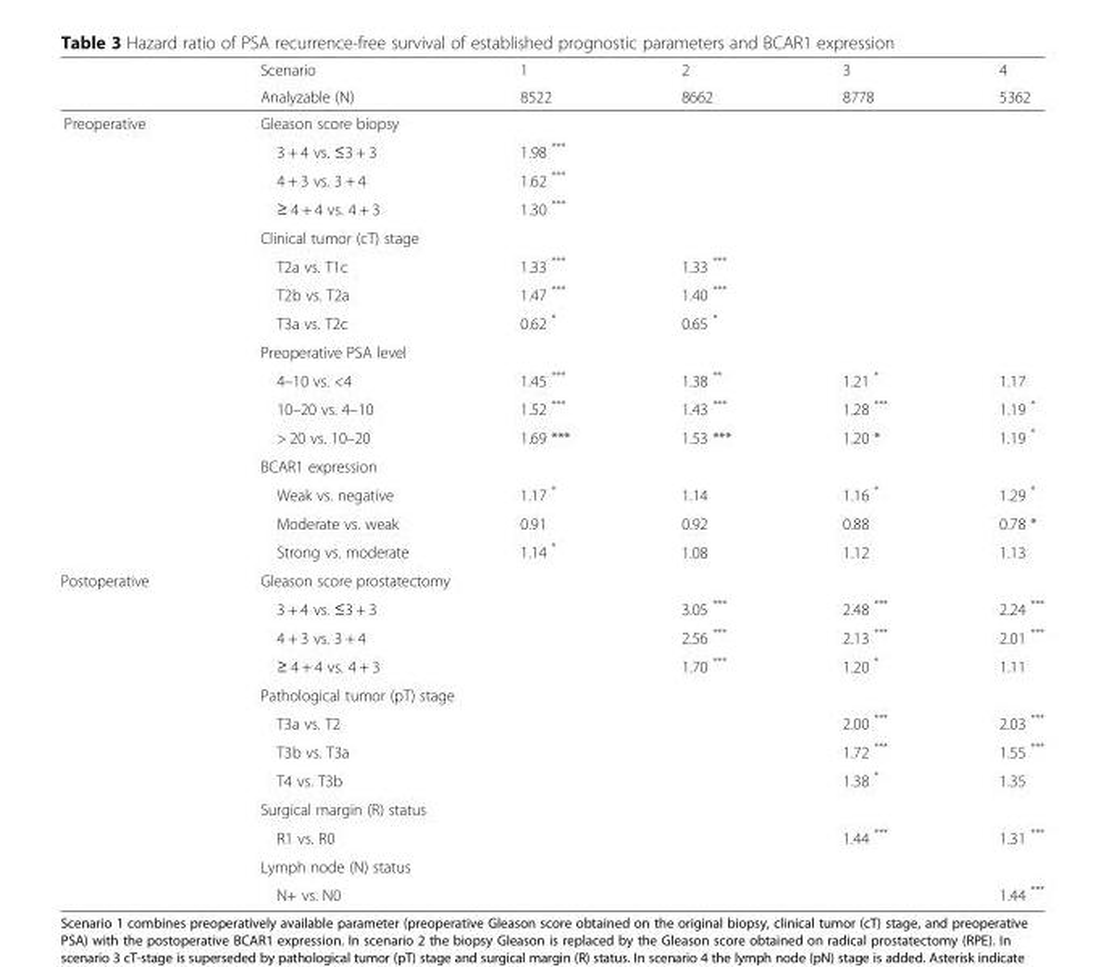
<table><thead><tr><td rowspan="2"></td><td rowspan="2">Scenario Analyzable (N)</td><td rowspan="2">1 8522</td><td rowspan="2">2 8662</td><td rowspan="2">3 8778</td><td rowspan="2">4 5362</td></tr><tr></tr></thead><tbody><tr><td rowspan="16">Preoperative</td><td colspan="5">Gleason score biopsy</td></tr><tr><td>3 + 4 vs. ≤3 + 3</td><td>1.98 ***</td><td></td><td></td><td></td></tr><tr><td>4 + 3 vs. 3 + 4</td><td>1.62 ***</td><td></td><td></td><td></td></tr><tr><td>≥ 4 + 4 vs. 4 + 3</td><td>1.30 ***</td><td></td><td></td><td></td></tr><tr><td colspan="5">Clinical tumor (cT) stage</td></tr><tr><td>T2a vs. T1c</td><td>1.33 ***</td><td>1.33 ***</td><td></td><td></td></tr><tr><td>T2b vs. T2a</td><td>1.47 ***</td><td>1.40 ***</td><td></td><td></td></tr><tr><td>T3a vs. T2c</td><td>0.62 *</td><td>0.65 *</td><td></td><td></td></tr><tr><td colspan="5">Preoperative PSA level</td></tr><tr><td>4–10 vs. &lt;4</td><td>1.45 ***</td><td>1.38 **</td><td>1.21 *</td><td>1.17</td></tr><tr><td>10–20 vs. 4–10</td><td>1.52 ***</td><td>1.43 ***</td><td>1.28 ***</td><td>1.19 *</td></tr><tr><td>&gt; 20 vs. 10–20</td><td>1.69 ***</td><td>1.53 ***</td><td>1.20 *</td><td>1.19 *</td></tr><tr><td colspan="5">BCAR1 expression</td></tr><tr><td>Weak vs. negative</td><td>1.17 *</td><td>1.14</td><td>1.16 *</td><td>1.29 *</td></tr><tr><td>Moderate vs. weak</td><td>0.91</td><td>0.92</td><td>0.88</td><td>0.78 *</td></tr><tr><td>Strong vs. moderate</td><td>1.14 *</td><td>1.08</td><td>1.12</td><td>1.13</td></tr><tr><td rowspan="12">Postoperative</td><td colspan="5">Gleason score prostatectomy</td></tr><tr><td>3 + 4 vs. ≤3 + 3</td><td></td><td>3.05 ***</td><td>2.48 ***</td><td>2.24 ***</td></tr><tr><td>4 + 3 vs. 3 + 4</td><td></td><td>2.56 ***</td><td>2.13 ***</td><td>2.01 ***</td></tr><tr><td>≥ 4 + 4 vs. 4 + 3</td><td></td><td>1.70 ***</td><td>1.20 *</td><td>1.11</td></tr><tr><td colspan="5">Pathological tumor (pT) stage</td></tr><tr><td>T3a vs. T2</td><td></td><td></td><td>2.00 ***</td><td>2.03 ***</td></tr><tr><td>T3b vs. T3a</td><td></td><td></td><td>1.72 ***</td><td>1.55 ***</td></tr><tr><td>T4 vs. T3b</td><td></td><td></td><td>1.38 *</td><td>1.35</td></tr><tr><td colspan="5">Surgical margin (R) status</td></tr><tr><td>R1 vs. R0</td><td></td><td></td><td>1.44 ***</td><td>1.31 ***</td></tr><tr><td colspan="5">Lymph node (N) status</td></tr><tr><td>N+ vs. N0</td><td></td><td></td><td></td><td>1.44 ***</td></tr></tbody></table>